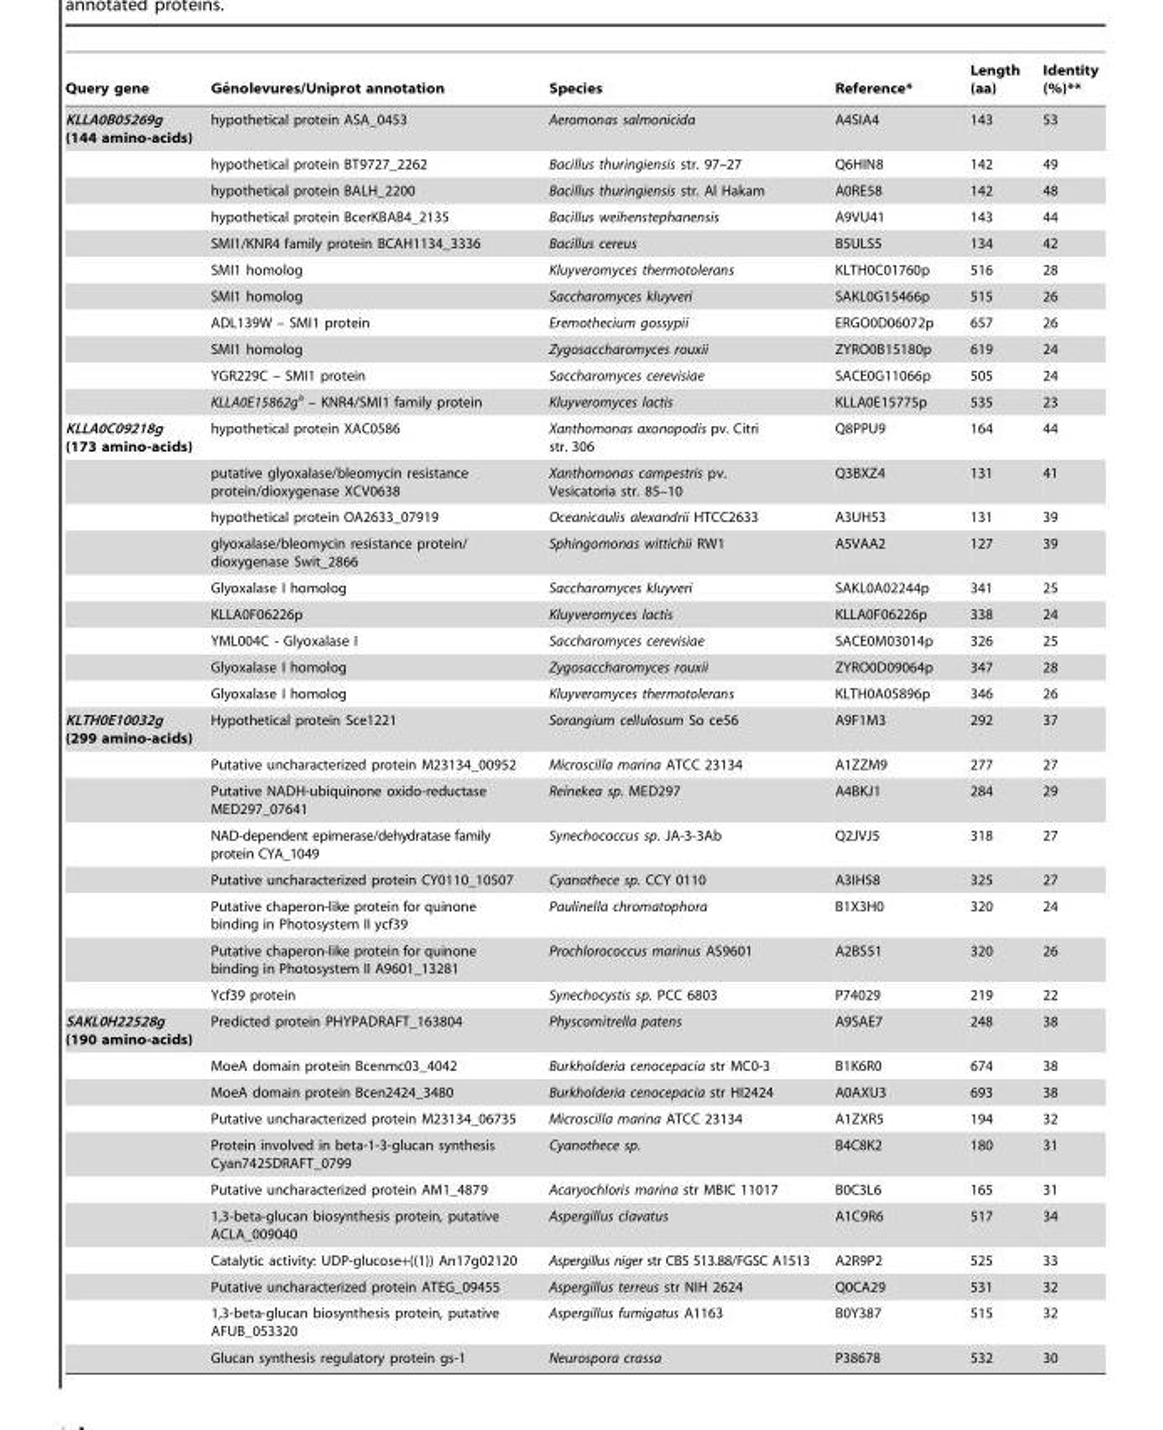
<table><thead><tr><td>Query gene</td><td>Ge´nolevures/Uniprot annotation</td><td>Species</td><td>Reference*</td><td>Length (aa)</td><td>Identity (%)**</td></tr></thead><tbody><tr><td rowspan="11">KLLA0B05269g (144 amino-acids)</td><td>hypothetical protein ASA_0453</td><td>Aeromonas salmonicida</td><td>A4SIA4</td><td>143</td><td>53</td></tr><tr><td>hypothetical protein BT9727_2262</td><td>Bacillus thuringiensis str. 97–27</td><td>Q6HIN8</td><td>142</td><td>49</td></tr><tr><td>hypothetical protein BALH_2200</td><td>Bacillus thuringiensis str. Al Hakam</td><td>A0RE58</td><td>142</td><td>48</td></tr><tr><td>hypothetical protein BcerKBAB4_2135</td><td>Bacillus weihenstephanensis</td><td>A9VU41</td><td>143</td><td>44</td></tr><tr><td>SMI1/KNR4 family protein BCAH1134_3336</td><td>Bacillus cereus</td><td>B5ULS5</td><td>134</td><td>42</td></tr><tr><td>SMI1 homolog</td><td>Kluyveromyces thermotolerans</td><td>KLTH0C01760p</td><td>516</td><td>28</td></tr><tr><td>SMI1 homolog</td><td>Saccharomyces kluyveri</td><td>SAKL0G15466p</td><td>515</td><td>26</td></tr><tr><td>ADL139W – SMI1 protein</td><td>Eremothecium gossypii</td><td>ERGO0D06072p</td><td>657</td><td>26</td></tr><tr><td>SMI1 homolog</td><td>Zygosaccharomyces rouxii</td><td>ZYRO0B15180p</td><td>619</td><td>24</td></tr><tr><td>YGR229C – SMI1 protein</td><td>Saccharomyces cerevisiae</td><td>SACE0G11066p</td><td>505</td><td>24</td></tr><tr><td>KLLA0E15862ga – KNR4/SMI1 family protein</td><td>Kluyveromyces lactis</td><td>KLLA0E15775p</td><td>535</td><td>23</td></tr><tr><td rowspan="9">KLLA0C09218g (173 amino-acids)</td><td>hypothetical protein XAC0586</td><td>Xanthomonas axonopodis pv. Citri str. 306</td><td>Q8PPU9</td><td>164</td><td>44</td></tr><tr><td>putative glyoxalase/bleomycin resistance protein/dioxygenase XCV0638</td><td>Xanthomonas campestris pv. Vesicatoria str. 85–10</td><td>Q3BXZ4</td><td>131</td><td>41</td></tr><tr><td>hypothetical protein OA2633_07919</td><td>Oceanicaulis alexandrii HTCC2633</td><td>A3UH53</td><td>131</td><td>39</td></tr><tr><td>glyoxalase/bleomycin resistance protein/ dioxygenase Swit_2866</td><td>Sphingomonas wittichii RW1</td><td>A5VAA2</td><td>127</td><td>39</td></tr><tr><td>Glyoxalase I homolog</td><td>Saccharomyces kluyveri</td><td>SAKL0A02244p</td><td>341</td><td>25</td></tr><tr><td>KLLA0F06226p</td><td>Kluyveromyces lactis</td><td>KLLA0F06226p</td><td>338</td><td>24</td></tr><tr><td>YML004C - Glyoxalase I</td><td>Saccharomyces cerevisiae</td><td>SACE0M03014p</td><td>326</td><td>25</td></tr><tr><td>Glyoxalase I homolog</td><td>Zygosaccharomyces rouxii</td><td>ZYRO0D09064p</td><td>347</td><td>28</td></tr><tr><td>Glyoxalase I homolog</td><td>Kluyveromyces thermotolerans</td><td>KLTH0A05896p</td><td>346</td><td>26</td></tr><tr><td rowspan="8">KLTH0E10032g (299 amino-acids)</td><td>Hypothetical protein Sce1221</td><td>Sorangium cellulosum So ce56</td><td>A9F1M3</td><td>292</td><td>37</td></tr><tr><td>Putative uncharacterized protein M23134_00952</td><td>Microscilla marina ATCC 23134</td><td>A1ZZM9</td><td>277</td><td>27</td></tr><tr><td>Putative NADH-ubiquinone oxido-reductase MED297_07641</td><td>Reinekea sp. MED297</td><td>A4BKJ1</td><td>284</td><td>29</td></tr><tr><td>NAD-dependent epimerase/dehydratase family protein CYA_1049</td><td>Synechococcus sp. JA-3-3Ab</td><td>Q2JVJ5</td><td>318</td><td>27</td></tr><tr><td>Putative uncharacterized protein CY0110_10507</td><td>Cyanothece sp. CCY 0110</td><td>A3IH58</td><td>325</td><td>27</td></tr><tr><td>Putative chaperon-like protein for quinone binding in Photosystem II ycf39</td><td>Paulinella chromatophora</td><td>B1X3H0</td><td>320</td><td>24</td></tr><tr><td>Putative chaperon-like protein for quinone binding in Photosystem II A9601_13281</td><td>Prochlorococcus marinus AS9601</td><td>A2BS51</td><td>320</td><td>26</td></tr><tr><td>Ycf39 protein</td><td>Synechocystis sp. PCC 6803</td><td>P74029</td><td>219</td><td>22</td></tr><tr><td rowspan="11">SAKL0H22528g (190 amino-acids)</td><td>Predicted protein PHYPADRAFT_163804</td><td>Physcomitrella patens</td><td>A9SAE7</td><td>248</td><td>38</td></tr><tr><td>MoeA domain protein Bcenmc03_4042</td><td>Burkholderia cenocepacia str MC0-3</td><td>B1K6R0</td><td>674</td><td>38</td></tr><tr><td>MoeA domain protein Bcen2424_3480</td><td>Burkholderia cenocepacia str HI2424</td><td>A0AXU3</td><td>693</td><td>38</td></tr><tr><td>Putative uncharacterized protein M23134_06735</td><td>Microscilla marina ATCC 23134</td><td>A1ZXR5</td><td>194</td><td>32</td></tr><tr><td>Protein involved in beta-1-3-glucan synthesis Cyan7425DRAFT_0799</td><td>Cyanothece sp.</td><td>B4C8K2</td><td>180</td><td>31</td></tr><tr><td>Putative uncharacterized protein AM1_4879</td><td>Acaryochloris marina str MBIC 11017</td><td>B0C3L6</td><td>165</td><td>31</td></tr><tr><td>1,3-beta-glucan biosynthesis protein, putative ACLA_009040</td><td>Aspergillus clavatus</td><td>A1C9R6</td><td>517</td><td>34</td></tr><tr><td>Catalytic activity: UDP-glucose+((1)) An17g02120</td><td>Aspergillus niger str CBS 513.88/FGSC A1513</td><td>A2R9P2</td><td>525</td><td>33</td></tr><tr><td>Putative uncharacterized protein ATEG_09455</td><td>Aspergillus terreus str NIH 2624</td><td>Q0CA29</td><td>531</td><td>32</td></tr><tr><td>1,3-beta-glucan biosynthesis protein, putative AFUB_053320</td><td>Aspergillus fumigatus A1163</td><td>B0Y387</td><td>515</td><td>32</td></tr><tr><td>Glucan synthesis regulatory protein gs-1</td><td>Neurospora crassa</td><td>P38678</td><td>532</td><td>30</td></tr></tbody></table>